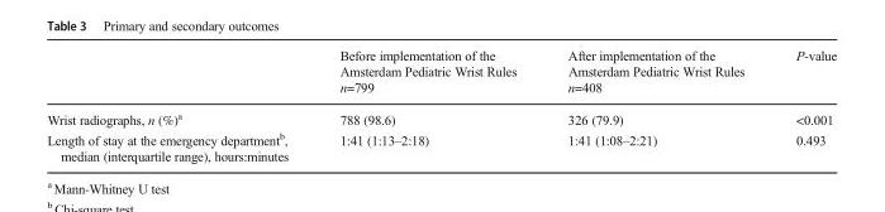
<table><thead><tr><td></td><td>Before implementation of the Amsterdam Pediatric Wrist Rules n=799</td><td>After implementation of the Amsterdam Pediatric Wrist Rules n=408</td><td>P-value</td></tr></thead><tbody><tr><td>Wrist radiographs, n (%)<sup>a</sup></td><td>788 (98.6)</td><td>326 (79.9)</td><td>&lt;0.001</td></tr><tr><td>Length of stay at the emergency department<sup>b</sup>, median (interquartile range), hours:minutes</td><td>1:41 (1:13–2:18)</td><td>1:41 (1:08–2:21)</td><td>0.493</td></tr></tbody></table>